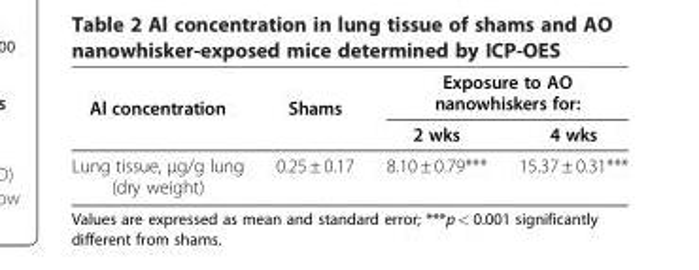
<table><thead><tr><td rowspan="2">Al concentration</td><td rowspan="2">Shams</td><td colspan="2">Exposure to AO nanowhiskers for:</td></tr><tr><td>2 wks</td><td>4 wks</td></tr></thead><tbody><tr><td>Lung tissue, μg/g lung (dry weight)</td><td>0.25 ± 0.17</td><td>8.10 ± 0.79***</td><td>15.37 ± 0.31***</td></tr></tbody></table>